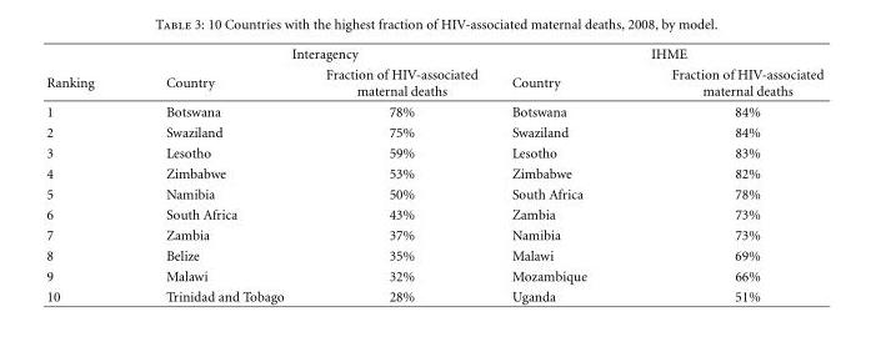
<table><thead><tr><td rowspan="2">Ranking</td><td colspan="2">Interagency</td><td colspan="2">IHME</td></tr><tr><td>Country</td><td>Fraction of HIV-associated maternal deaths</td><td>Country</td><td>Fraction of HIV-associated maternal deaths</td></tr></thead><tbody><tr><td>1</td><td>Botswana</td><td>78%</td><td>Botswana</td><td>84%</td></tr><tr><td>2</td><td>Swaziland</td><td>75%</td><td>Swaziland</td><td>84%</td></tr><tr><td>3</td><td>Lesotho</td><td>59%</td><td>Lesotho</td><td>83%</td></tr><tr><td>4</td><td>Zimbabwe</td><td>53%</td><td>Zimbabwe</td><td>82%</td></tr><tr><td>5</td><td>Namibia</td><td>50%</td><td>South Africa</td><td>78%</td></tr><tr><td>6</td><td>South Africa</td><td>43%</td><td>Zambia</td><td>73%</td></tr><tr><td>7</td><td>Zambia</td><td>37%</td><td>Namibia</td><td>73%</td></tr><tr><td>8</td><td>Belize</td><td>35%</td><td>Malawi</td><td>69%</td></tr><tr><td>9</td><td>Malawi</td><td>32%</td><td>Mozambique</td><td>66%</td></tr><tr><td>10</td><td>Trinidad and Tobago</td><td>28%</td><td>Uganda</td><td>51%</td></tr></tbody></table>